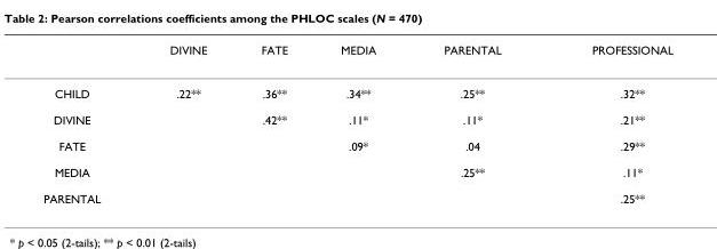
<table><thead><tr><td></td><td>DIVINE</td><td>FATE</td><td>MEDIA</td><td>PARENTAL</td><td>PROFESSIONAL</td></tr></thead><tbody><tr><td>CHILD</td><td>.22**</td><td>.36**</td><td>.34**</td><td>.25**</td><td>.32**</td></tr><tr><td>DIVINE</td><td></td><td>.42**</td><td>.11*</td><td>.11*</td><td>.21**</td></tr><tr><td>FATE</td><td></td><td></td><td>.09*</td><td>.04</td><td>.29**</td></tr><tr><td>MEDIA</td><td></td><td></td><td></td><td>.25**</td><td>.11*</td></tr><tr><td>PARENTAL</td><td></td><td></td><td></td><td></td><td>.25**</td></tr></tbody></table>